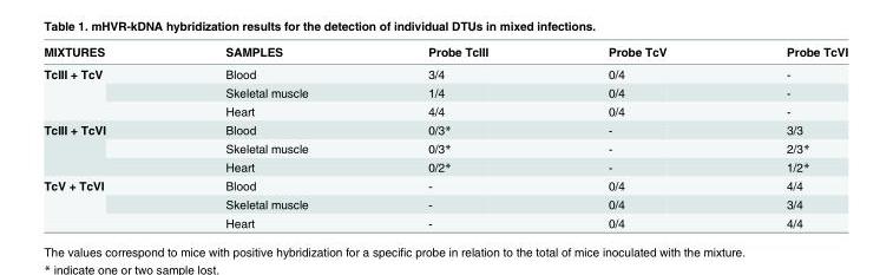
<table><thead><tr><td>MIXTURES</td><td>SAMPLES</td><td>Probe TcIII</td><td>Probe TcV</td><td>Probe TcVI</td></tr></thead><tbody><tr><td rowspan="3">TcIII + TcV</td><td>Blood</td><td>3/4</td><td>0/4</td><td>-</td></tr><tr><td>Skeletal muscle</td><td>1/4</td><td>0/4</td><td>-</td></tr><tr><td>Heart</td><td>4/4</td><td>0/4</td><td>-</td></tr><tr><td rowspan="3">TcIII + TcVI</td><td>Blood</td><td>0/3*</td><td>-</td><td>3/3</td></tr><tr><td>Skeletal muscle</td><td>0/3*</td><td>-</td><td>2/3*</td></tr><tr><td>Heart</td><td>0/2*</td><td>-</td><td>1/2*</td></tr><tr><td rowspan="3">TcV + TcVI</td><td>Blood</td><td>-</td><td>0/4</td><td>4/4</td></tr><tr><td>Skeletal muscle</td><td>-</td><td>0/4</td><td>3/4</td></tr><tr><td>Heart</td><td>-</td><td>0/4</td><td>4/4</td></tr></tbody></table>